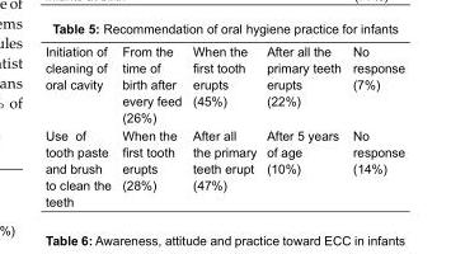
<table><tbody><tr><td>Initiation of cleaning of oral cavity</td><td>From the time of birth after every feed (26%)</td><td>When the first tooth erupts (45%)</td><td>After all the primary teeth erupts (22%)</td><td>No response (7%)</td></tr><tr><td>Use of tooth paste and brush to clean the teeth</td><td>When the first tooth erupts (28%)</td><td>After all the primary teeth erupt (47%)</td><td>After 5 years of age (10%)</td><td>No response (14%)</td></tr></tbody></table>